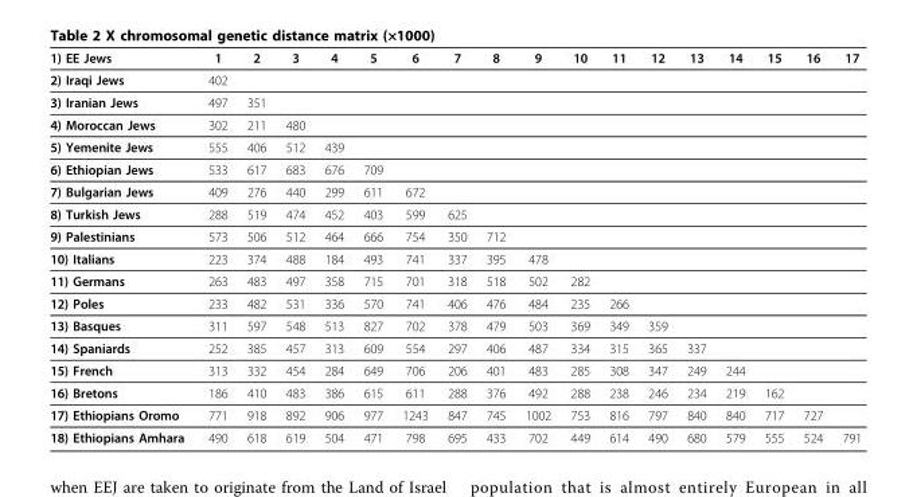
<table><thead><tr><td>1) EE Jews</td><td>1</td><td>2</td><td>3</td><td>4</td><td>5</td><td>6</td><td>7</td><td>8</td><td>9</td><td>10</td><td>11</td><td>12</td><td>13</td><td>14</td><td>15</td><td>16</td><td>17</td></tr></thead><tbody><tr><td>2) Iraqi Jews</td><td>402</td><td></td><td></td><td></td><td></td><td></td><td></td><td></td><td></td><td></td><td></td><td></td><td></td><td></td><td></td><td></td><td></td></tr><tr><td>3) Iranian Jews</td><td>497</td><td>351</td><td></td><td></td><td></td><td></td><td></td><td></td><td></td><td></td><td></td><td></td><td></td><td></td><td></td><td></td><td></td></tr><tr><td>4) Moroccan Jews</td><td>302</td><td>211</td><td>480</td><td></td><td></td><td></td><td></td><td></td><td></td><td></td><td></td><td></td><td></td><td></td><td></td><td></td><td></td></tr><tr><td>5) Yemenite Jews</td><td>555</td><td>406</td><td>512</td><td>439</td><td></td><td></td><td></td><td></td><td></td><td></td><td></td><td></td><td></td><td></td><td></td><td></td><td></td></tr><tr><td>6) Ethiopian Jews</td><td>533</td><td>617</td><td>683</td><td>676</td><td>709</td><td></td><td></td><td></td><td></td><td></td><td></td><td></td><td></td><td></td><td></td><td></td><td></td></tr><tr><td>7) Bulgarian Jews</td><td>409</td><td>276</td><td>440</td><td>299</td><td>611</td><td>672</td><td></td><td></td><td></td><td></td><td></td><td></td><td></td><td></td><td></td><td></td><td></td></tr><tr><td>8) Turkish Jews</td><td>288</td><td>519</td><td>474</td><td>452</td><td>403</td><td>599</td><td>625</td><td></td><td></td><td></td><td></td><td></td><td></td><td></td><td></td><td></td><td></td></tr><tr><td>9) Palestinians</td><td>573</td><td>506</td><td>512</td><td>464</td><td>666</td><td>754</td><td>350</td><td>712</td><td></td><td></td><td></td><td></td><td></td><td></td><td></td><td></td><td></td></tr><tr><td>10) Italians</td><td>223</td><td>374</td><td>488</td><td>184</td><td>493</td><td>741</td><td>337</td><td>395</td><td>478</td><td></td><td></td><td></td><td></td><td></td><td></td><td></td><td></td></tr><tr><td>11) Germans</td><td>263</td><td>483</td><td>497</td><td>358</td><td>715</td><td>701</td><td>318</td><td>518</td><td>502</td><td>282</td><td></td><td></td><td></td><td></td><td></td><td></td><td></td></tr><tr><td>12) Poles</td><td>233</td><td>482</td><td>531</td><td>336</td><td>570</td><td>741</td><td>406</td><td>476</td><td>484</td><td>235</td><td>266</td><td></td><td></td><td></td><td></td><td></td><td></td></tr><tr><td>13) Basques</td><td>311</td><td>597</td><td>548</td><td>513</td><td>827</td><td>702</td><td>378</td><td>479</td><td>503</td><td>369</td><td>349</td><td>359</td><td></td><td></td><td></td><td></td><td></td></tr><tr><td>14) Spaniards</td><td>252</td><td>385</td><td>457</td><td>313</td><td>609</td><td>554</td><td>297</td><td>406</td><td>487</td><td>334</td><td>315</td><td>365</td><td>337</td><td></td><td></td><td></td><td></td></tr><tr><td>15) French</td><td>313</td><td>332</td><td>454</td><td>284</td><td>649</td><td>706</td><td>206</td><td>401</td><td>483</td><td>285</td><td>308</td><td>347</td><td>249</td><td>244</td><td></td><td></td><td></td></tr><tr><td>16) Bretons</td><td>186</td><td>410</td><td>483</td><td>386</td><td>615</td><td>611</td><td>288</td><td>376</td><td>492</td><td>288</td><td>238</td><td>246</td><td>234</td><td>219</td><td>162</td><td></td><td></td></tr><tr><td>17) Ethiopians Oromo</td><td>771</td><td>918</td><td>892</td><td>906</td><td>977</td><td>1243</td><td>847</td><td>745</td><td>1002</td><td>753</td><td>816</td><td>797</td><td>840</td><td>840</td><td>717</td><td>727</td><td></td></tr><tr><td>18) Ethiopians Amhara</td><td>490</td><td>618</td><td>619</td><td>504</td><td>471</td><td>798</td><td>695</td><td>433</td><td>702</td><td>449</td><td>614</td><td>490</td><td>680</td><td>579</td><td>555</td><td>524</td><td>791</td></tr></tbody></table>